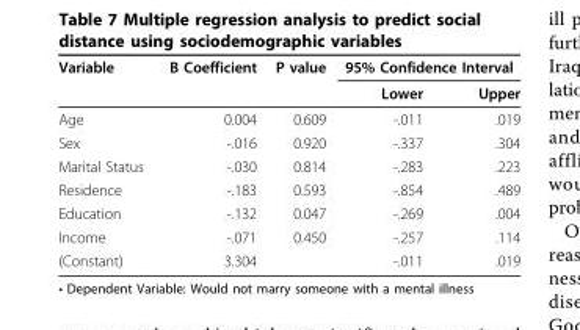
<table><thead><tr><td rowspan="2">Variable</td><td rowspan="2">B Coefficient</td><td rowspan="2">P value</td><td colspan="2">95% Confidence Interval</td></tr><tr><td>Lower</td><td>Upper</td></tr></thead><tbody><tr><td>Age</td><td>0.004</td><td>0.609</td><td>-.011</td><td>.019</td></tr><tr><td>Sex</td><td>-.016</td><td>0.920</td><td>-.337</td><td>.304</td></tr><tr><td>Marital Status</td><td>-.030</td><td>0.814</td><td>-.283</td><td>.223</td></tr><tr><td>Residence</td><td>-.183</td><td>0.593</td><td>-.854</td><td>.489</td></tr><tr><td>Education</td><td>-.132</td><td>0.047</td><td>-.269</td><td>.004</td></tr><tr><td>Income</td><td>-.071</td><td>0.450</td><td>-.257</td><td>.114</td></tr><tr><td>(Constant)</td><td>3.304</td><td></td><td>-.011</td><td>.019</td></tr></tbody></table>